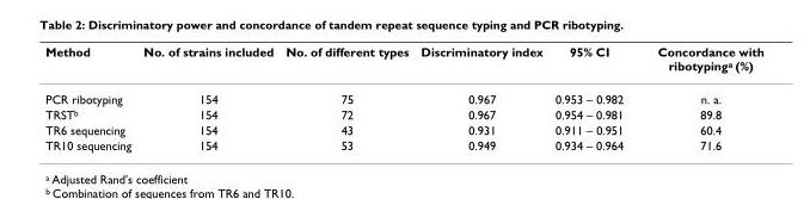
<table><thead><tr><td>Method</td><td>No. of strains included</td><td>No. of different types</td><td>Discriminatory index</td><td>95% CI</td><td>Concordance with ribotyping<sup>a</sup> (%)</td></tr></thead><tbody><tr><td>PCR ribotyping</td><td>154</td><td>75</td><td>0.967</td><td>0.953 – 0.982</td><td>n. a.</td></tr><tr><td>TRST<sup>b</sup></td><td>154</td><td>72</td><td>0.967</td><td>0.954 – 0.981</td><td>89.8</td></tr><tr><td>TR6 sequencing</td><td>154</td><td>43</td><td>0.931</td><td>0.911 – 0.951</td><td>60.4</td></tr><tr><td>TR10 sequencing</td><td>154</td><td>53</td><td>0.949</td><td>0.934 – 0.964</td><td>71.6</td></tr></tbody></table>